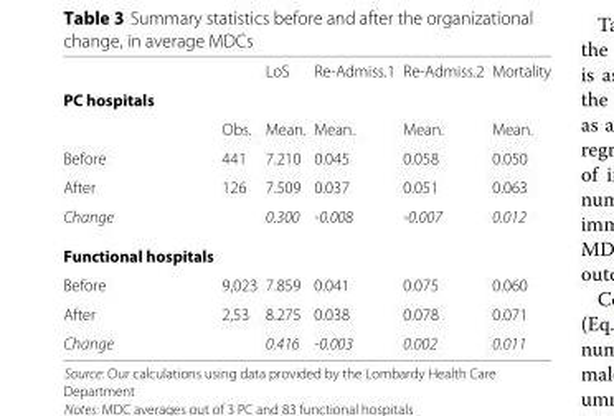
<table><thead><tr><td></td><td></td><td>LoS</td><td>Re-Admiss.1</td><td>Re-Admiss.2</td><td>Mortality</td></tr></thead><tbody><tr><td colspan="6">PC hospitals</td></tr><tr><td></td><td>Obs.</td><td>Mean.</td><td>Mean.</td><td>Mean.</td><td>Mean.</td></tr><tr><td>Before</td><td>441</td><td>7.210</td><td>0.045</td><td>0.058</td><td>0.050</td></tr><tr><td>After</td><td>126</td><td>7.509</td><td>0.037</td><td>0.051</td><td>0.063</td></tr><tr><td>Change</td><td></td><td>0.300</td><td>-0.008</td><td>-0.007</td><td>0.012</td></tr><tr><td colspan="6">Functional hospitals</td></tr><tr><td>Before</td><td>9,023</td><td>7.859</td><td>0.041</td><td>0.075</td><td>0.060</td></tr><tr><td>After</td><td>2,53</td><td>8.275</td><td>0.038</td><td>0.078</td><td>0.071</td></tr><tr><td>Change</td><td></td><td>0.416</td><td>-0.003</td><td>0.002</td><td>0.011</td></tr></tbody></table>